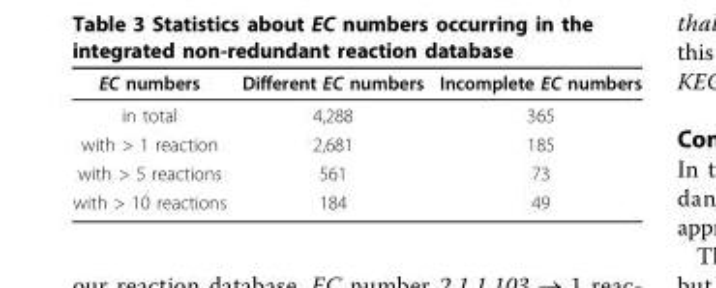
<table><thead><tr><td>EC numbers</td><td>Different EC numbers</td><td>Incomplete EC numbers</td></tr></thead><tbody><tr><td>in total</td><td>4,288</td><td>365</td></tr><tr><td>with &gt; 1 reaction</td><td>2,681</td><td>185</td></tr><tr><td>with &gt; 5 reactions</td><td>561</td><td>73</td></tr><tr><td>with &gt; 10 reactions</td><td>184</td><td>49</td></tr></tbody></table>